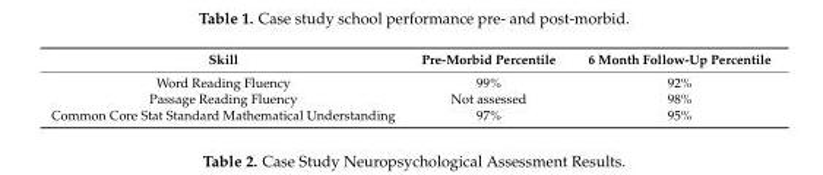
<table><thead><tr><td>Skill</td><td>Pre-Morbid Percentile</td><td>6 Month Follow-Up Percentile</td></tr></thead><tbody><tr><td>Word Reading Fluency</td><td>99%</td><td>92%</td></tr><tr><td>Passage Reading Fluency</td><td>Not assessed</td><td>98%</td></tr><tr><td>Common Core Stat Standard Mathematical Understanding</td><td>97%</td><td>95%</td></tr></tbody></table>